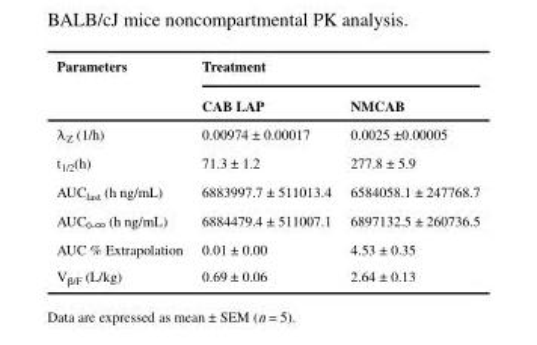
<table><thead><tr><td rowspan="2">Parameters</td><td rowspan="2">Treatment CAB LAP</td><td rowspan="2">NMCAB</td></tr><tr></tr></thead><tbody><tr><td>λ<sub>Z</sub> (1/h)</td><td>0.00974 ± 0.00017</td><td>0.0025 ±0.00005</td></tr><tr><td>t<sub>1/2</sub>(h)</td><td>71.3 ± 1.2</td><td>277.8 ± 5.9</td></tr><tr><td>AUC<sub>last</sub> (h ng/mL)</td><td>6883997.7 ± 511013.4</td><td>6584058.1 ± 247768.7</td></tr><tr><td>AUC<sub>0-∞</sub> (h ng/mL)</td><td>6884479.4 ± 511007.1</td><td>6897132.5 ± 260736.5</td></tr><tr><td>AUC % Extrapolation</td><td>0.01 ± 0.00</td><td>4.53 ± 0.35</td></tr><tr><td>V<sub>β/F</sub> (L/kg)</td><td>0.69 ± 0.06</td><td>2.64 ± 0.13</td></tr></tbody></table>